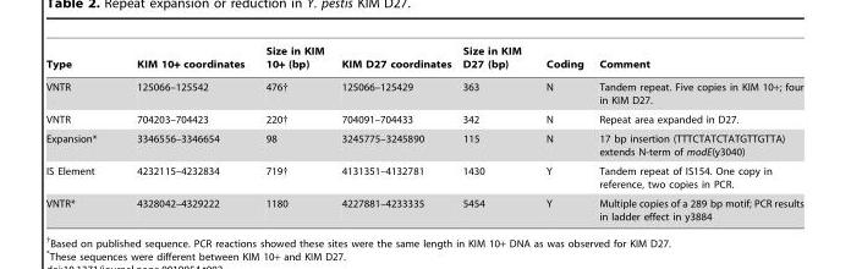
<table><thead><tr><td>Type</td><td>KIM 10+ coordinates</td><td>Size in KIM 10+ (bp)</td><td>KIM D27 coordinates</td><td>Size in KIM D27 (bp)</td><td>Coding</td><td>Comment</td></tr></thead><tbody><tr><td>VNTR</td><td>125066–125542</td><td>476†</td><td>125066–125429</td><td>363</td><td>N</td><td>Tandem repeat. Five copies in KIM 10+; four in KIM D27.</td></tr><tr><td>VNTR</td><td>704203–704423</td><td>220†</td><td>704091–704433</td><td>342</td><td>N</td><td>Repeat area expanded in D27.</td></tr><tr><td>Expansion*</td><td>3346556–3346654</td><td>98</td><td>3245775–3245890</td><td>115</td><td>N</td><td>17 bp insertion (TTTCTATCTATGTTGTTA) extends N-term of modE(y3040)</td></tr><tr><td>IS Element</td><td>4232115–4232834</td><td>719†</td><td>4131351–4132781</td><td>1430</td><td>Y</td><td>Tandem repeat of IS154. One copy in reference, two copies in PCR.</td></tr><tr><td>VNTR*</td><td>4328042–4329222</td><td>1180</td><td>4227881–4233335</td><td>5454</td><td>Y</td><td>Multiple copies of a 289 bp motif; PCR results in ladder effect in y3884</td></tr></tbody></table>